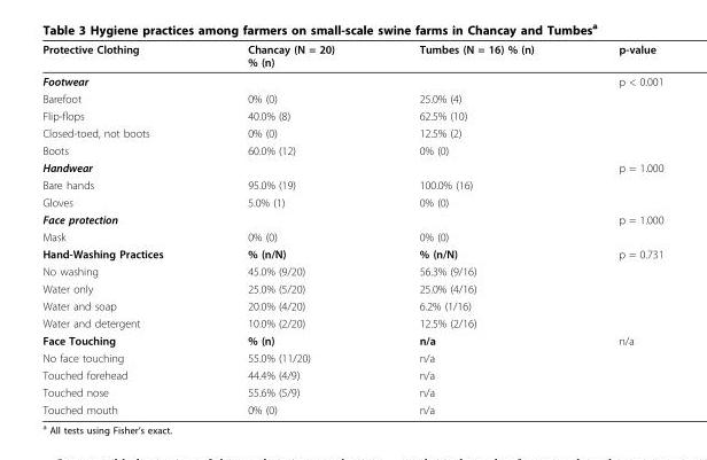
<table><thead><tr><td>Protective Clothing</td><td>Chancay (N = 20) % (n)</td><td>Tumbes (N = 16) % (n)</td><td>p-value</td></tr></thead><tbody><tr><td>Footwear</td><td></td><td></td><td>p &lt; 0.001</td></tr><tr><td>Barefoot</td><td>0% (0)</td><td>25.0% (4)</td><td></td></tr><tr><td>Flip-flops</td><td>40.0% (8)</td><td>62.5% (10)</td><td></td></tr><tr><td>Closed-toed, not boots</td><td>0% (0)</td><td>12.5% (2)</td><td></td></tr><tr><td>Boots</td><td>60.0% (12)</td><td>0% (0)</td><td></td></tr><tr><td>Handwear</td><td></td><td></td><td>p = 1.000</td></tr><tr><td>Bare hands</td><td>95.0% (19)</td><td>100.0% (16)</td><td></td></tr><tr><td>Gloves</td><td>5.0% (1)</td><td>0% (0)</td><td></td></tr><tr><td>Face protection</td><td></td><td></td><td>p = 1.000</td></tr><tr><td>Mask</td><td>0% (0)</td><td>0% (0)</td><td></td></tr><tr><td>Hand-Washing Practices</td><td>% (n/N)</td><td>% (n/N)</td><td>p = 0.731</td></tr><tr><td>No washing</td><td>45.0% (9/20)</td><td>56.3% (9/16)</td><td></td></tr><tr><td>Water only</td><td>25.0% (5/20)</td><td>25.0% (4/16)</td><td></td></tr><tr><td>Water and soap</td><td>20.0% (4/20)</td><td>6.2% (1/16)</td><td></td></tr><tr><td>Water and detergent</td><td>10.0% (2/20)</td><td>12.5% (2/16)</td><td></td></tr><tr><td>Face Touching</td><td>% (n)</td><td>n/a</td><td>n/a</td></tr><tr><td>No face touching</td><td>55.0% (11/20)</td><td>n/a</td><td></td></tr><tr><td>Touched forehead</td><td>44.4% (4/9)</td><td>n/a</td><td></td></tr><tr><td>Touched nose</td><td>55.6% (5/9)</td><td>n/a</td><td></td></tr><tr><td>Touched mouth</td><td>0% (0)</td><td>n/a</td><td></td></tr></tbody></table>